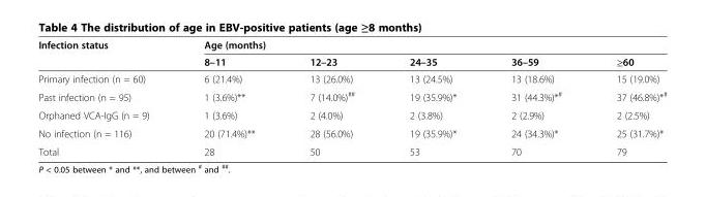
<table><thead><tr><td rowspan="2">Infection status</td><td colspan="5">Age (months)</td></tr><tr><td>8–11</td><td>12–23</td><td>24–35</td><td>36–59</td><td>≥60</td></tr></thead><tbody><tr><td>Primary infection (n = 60)</td><td>6 (21.4%)</td><td>13 (26.0%)</td><td>13 (24.5%)</td><td>13 (18.6%)</td><td>15 (19.0%)</td></tr><tr><td>Past infection (n = 95)</td><td>1 (3.6%)**</td><td>7 (14.0%)<sup>##</sup></td><td>19 (35.9%)*</td><td>31 (44.3%)*<sup>#</sup></td><td>37 (46.8%)*<sup>#</sup></td></tr><tr><td>Orphaned VCA-IgG (n = 9)</td><td>1 (3.6%)</td><td>2 (4.0%)</td><td>2 (3.8%)</td><td>2 (2.9%)</td><td>2 (2.5%)</td></tr><tr><td>No infection (n = 116)</td><td>20 (71.4%)**</td><td>28 (56.0%)</td><td>19 (35.9%)*</td><td>24 (34.3%)*</td><td>25 (31.7%)*</td></tr><tr><td>Total</td><td>28</td><td>50</td><td>53</td><td>70</td><td>79</td></tr></tbody></table>